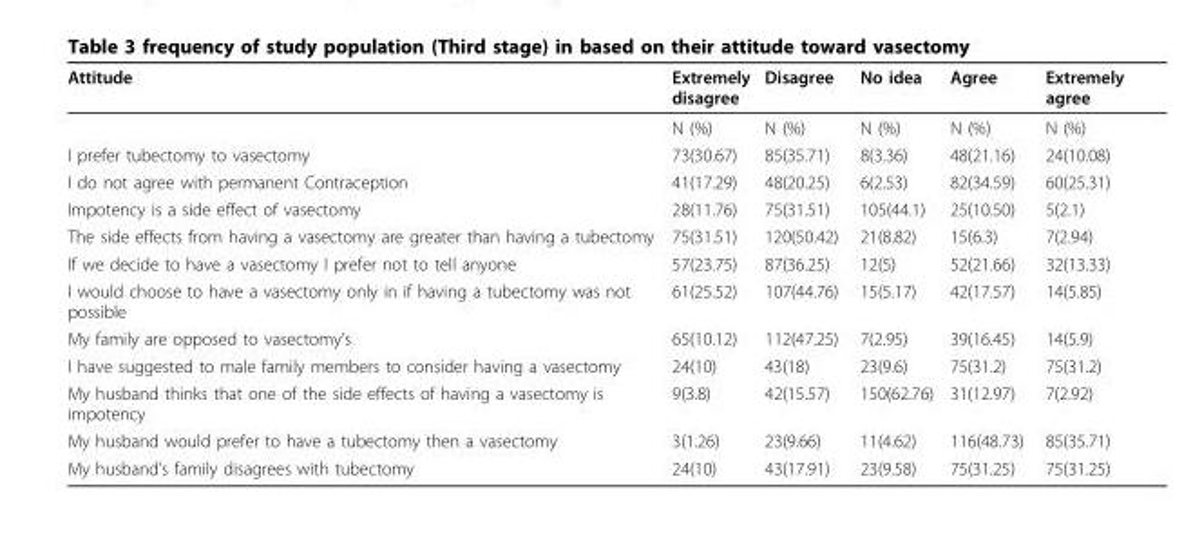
<table><thead><tr><td>Attitude</td><td>Extremely disagree</td><td>Disagree</td><td>No idea</td><td>Agree</td><td>Extremely agree</td></tr></thead><tbody><tr><td></td><td>N (%)</td><td>N (%)</td><td>N (%)</td><td>N (%)</td><td>N (%)</td></tr><tr><td>I prefer tubectomy to vasectomy</td><td>73(30.67)</td><td>85(35.71)</td><td>8(3.36)</td><td>48(21.16)</td><td>24(10.08)</td></tr><tr><td>I do not agree with permanent Contraception</td><td>41(17.29)</td><td>48(20.25)</td><td>6(2.53)</td><td>82(34.59)</td><td>60(25.31)</td></tr><tr><td>Impotency is a side effect of vasectomy</td><td>28(11.76)</td><td>75(31.51)</td><td>105(44.1)</td><td>25(10.50)</td><td>5(2.1)</td></tr><tr><td>The side effects from having a vasectomy are greater than having a tubectomy</td><td>75(31.51)</td><td>120(50.42)</td><td>21(8.82)</td><td>15(6.3)</td><td>7(2.94)</td></tr><tr><td>If we decide to have a vasectomy I prefer not to tell anyone</td><td>57(23.75)</td><td>87(36.25)</td><td>12(5)</td><td>52(21.66)</td><td>32(13.33)</td></tr><tr><td>I would choose to have a vasectomy only in if having a tubectomy was not possible</td><td>61(25.52)</td><td>107(44.76)</td><td>15(5.17)</td><td>42(17.57)</td><td>14(5.85)</td></tr><tr><td>My family are opposed to vasectomy’s</td><td>65(10.12)</td><td>112(47.25)</td><td>7(2.95)</td><td>39(16.45)</td><td>14(5.9)</td></tr><tr><td>I have suggested to male family members to consider having a vasectomy</td><td>24(10)</td><td>43(18)</td><td>23(9.6)</td><td>75(31.2)</td><td>75(31.2)</td></tr><tr><td>My husband thinks that one of the side effects of having a vasectomy is impotency</td><td>9(3.8)</td><td>42(15.57)</td><td>150(62.76)</td><td>31(12.97)</td><td>7(2.92)</td></tr><tr><td>My husband would prefer to have a tubectomy then a vasectomy</td><td>3(1.26)</td><td>23(9.66)</td><td>11(4.62)</td><td>116(48.73)</td><td>85(35.71)</td></tr><tr><td>My husband’s family disagrees with tubectomy</td><td>24(10)</td><td>43(17.91)</td><td>23(9.58)</td><td>75(31.25)</td><td>75(31.25)</td></tr></tbody></table>